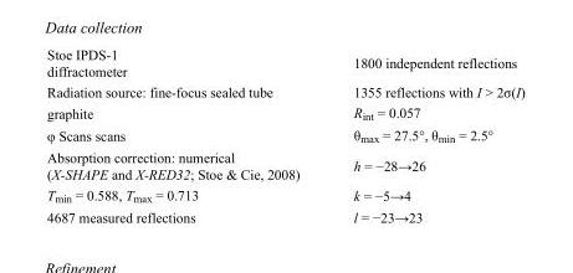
<table><tbody><tr><td>Stoe IPDS-1 diffractometer</td><td>1800 independent reflections</td></tr><tr><td>Radiation source: fine-focus sealed tube</td><td>1355 reflections with I &gt; 2σ(I)</td></tr><tr><td>graphite</td><td>R<sub>int</sub> = 0.057</td></tr><tr><td>φ Scans scans</td><td>θ<sub>max</sub> = 27.5°, θ<sub>min</sub> = 2.5°</td></tr><tr><td>Absorption correction: numerical (X-SHAPE and X-RED32; Stoe &amp; Cie, 2008)</td><td>h = −28→26</td></tr><tr><td>T<sub>min</sub> = 0.588, T<sub>max</sub> = 0.713</td><td>k = −5→4</td></tr><tr><td>4687 measured reflections</td><td>l = −23→23</td></tr></tbody></table>